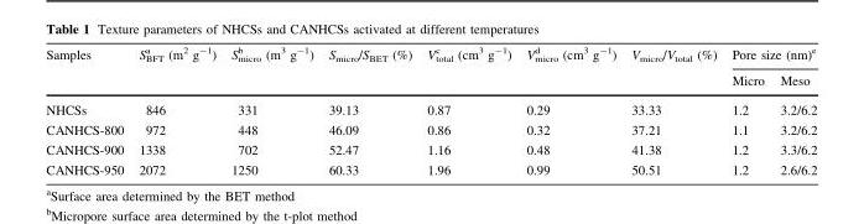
<table><thead><tr><td rowspan="2">Samples</td><td rowspan="2">S<sub>BFT</sub> <sup>a</sup> (m<sup>2</sup> g<sup>-1</sup>)</td><td rowspan="2">S<sub>micro</sub> <sup>b</sup> (m<sup>3</sup> g<sup>-1</sup>)</td><td rowspan="2">S<sub>micro</sub>/S<sub>BET</sub> (%)</td><td rowspan="2">V<sub>total</sub> <sup>c</sup> (cm<sup>3</sup> g<sup>-1</sup>)</td><td rowspan="2">V<sub>micro</sub> <sup>d</sup> (cm<sup>3</sup> g<sup>-1</sup>)</td><td rowspan="2">V<sub>micro</sub>/V<sub>total</sub> (%)</td><td colspan="2">Pore size (nm)<sup>e</sup></td></tr><tr><td>Micro</td><td>Meso</td></tr></thead><tbody><tr><td>NHCSs</td><td>846</td><td>331</td><td>39.13</td><td>0.87</td><td>0.29</td><td>33.33</td><td>1.2</td><td>3.2/6.2</td></tr><tr><td>CANHCS-800</td><td>972</td><td>448</td><td>46.09</td><td>0.86</td><td>0.32</td><td>37.21</td><td>1.1</td><td>3.2/6.2</td></tr><tr><td>CANHCS-900</td><td>1338</td><td>702</td><td>52.47</td><td>1.16</td><td>0.48</td><td>41.38</td><td>1.2</td><td>3.3/6.2</td></tr><tr><td>CANHCS-950</td><td>2072</td><td>1250</td><td>60.33</td><td>1.96</td><td>0.99</td><td>50.51</td><td>1.2</td><td>2.6/6.2</td></tr></tbody></table>